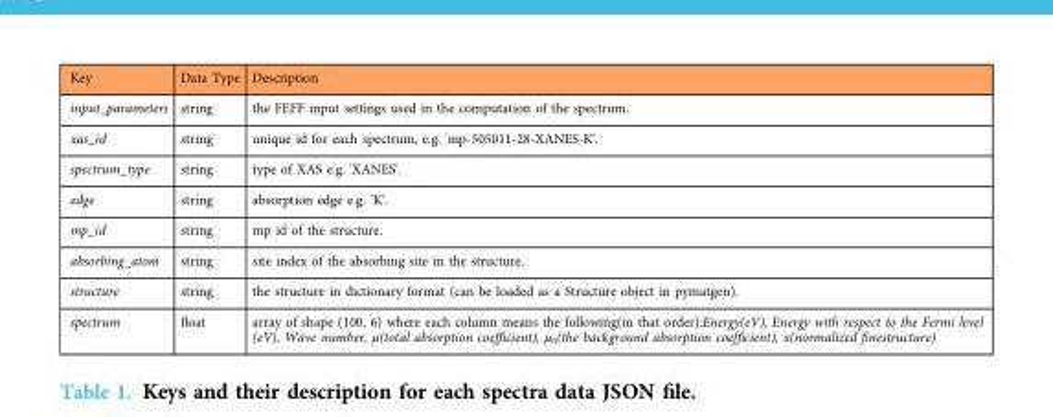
<table><thead><tr><td>Key</td><td>Data Type</td><td>Description</td></tr></thead><tbody><tr><td>input_parameters</td><td>string</td><td>the FEFF input settings used in the computation of the spectrum.</td></tr><tr><td>xas_id</td><td>string</td><td>unique id for each spectrum, e.g. &#x27;mp-505011-28-XANES-K&#x27;.</td></tr><tr><td>spectrum_type</td><td>string</td><td>type of XAS e.g. &#x27;XANES&#x27;.</td></tr><tr><td>edge</td><td>string</td><td>absorption edge e.g. &#x27;K&#x27;.</td></tr><tr><td>mp_id</td><td>string</td><td>mp id of the structure.</td></tr><tr><td>absorbing_atom</td><td>string</td><td>site index of the absorbing site in the structure.</td></tr><tr><td>structure</td><td>string</td><td>the structure in dictionary format (can be loaded as a Structure object in pymatgen).</td></tr><tr><td>spectrum</td><td>float</td><td>array of shape (100, 6) where each column means the following(in that order):Energy(eV), Energy with respect to the Fermi level (eV), Wave number, μ(total absorption coefficient), μ<sub>0</sub>(the background absorption coefficient), x(normalized finestructure)</td></tr></tbody></table>